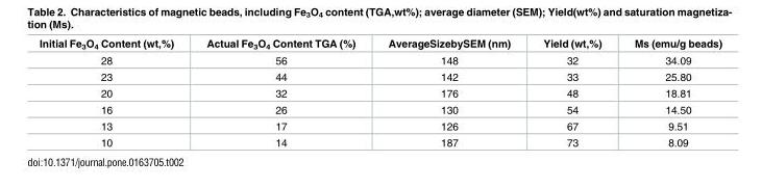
<table><thead><tr><td>Initial Fe<sub>3</sub>O<sub>4</sub> Content (wt,%)</td><td>Actual Fe<sub>3</sub>O<sub>4</sub> Content TGA (%)</td><td>AverageSizebySEM (nm)</td><td>Yield (wt,%)</td><td>Ms (emu/g beads)</td></tr></thead><tbody><tr><td>28</td><td>56</td><td>148</td><td>32</td><td>34.09</td></tr><tr><td>23</td><td>44</td><td>142</td><td>33</td><td>25.80</td></tr><tr><td>20</td><td>32</td><td>176</td><td>48</td><td>18.81</td></tr><tr><td>16</td><td>26</td><td>130</td><td>54</td><td>14.50</td></tr><tr><td>13</td><td>17</td><td>126</td><td>67</td><td>9.51</td></tr><tr><td>10</td><td>14</td><td>187</td><td>73</td><td>8.09</td></tr></tbody></table>